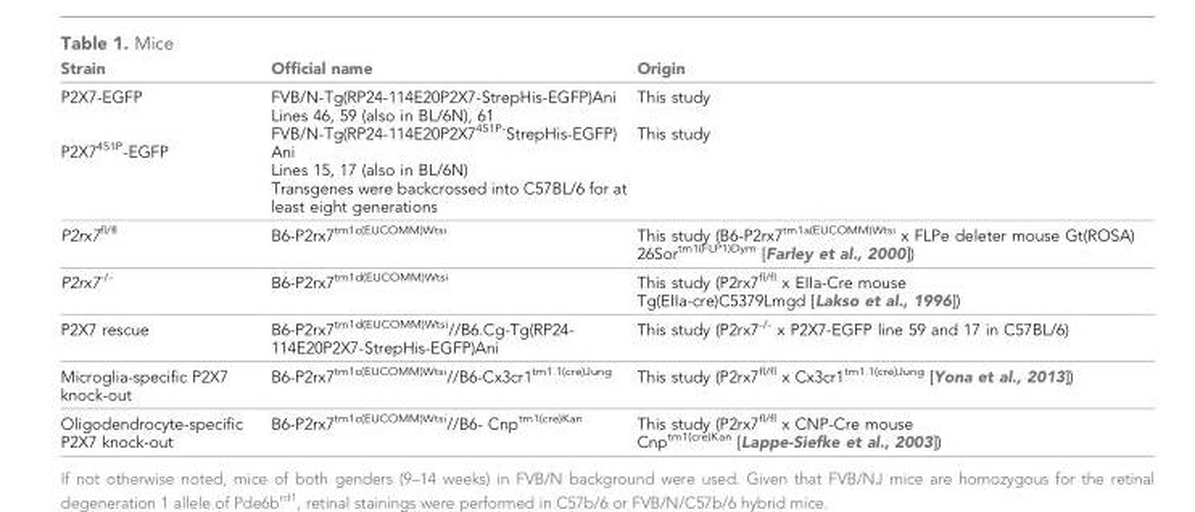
<table><thead><tr><td>Strain</td><td>Official name</td><td>Origin</td></tr></thead><tbody><tr><td>P2X7-EGFP P2X7<sup>451P</sup>-EGFP</td><td>FVB/N-Tg(RP24-114E20P2X7-StrepHis-EGFP)Ani Lines 46, 59 (also in BL/6N), 61 FVB/N-Tg(RP24-114E20P2X7<sup>451P-</sup>StrepHis-EGFP) Ani Lines 15, 17 (also in BL/6N) Transgenes were backcrossed into C57BL/6 for at least eight generations</td><td>This study This study</td></tr><tr><td>P2rx7<sup>fl/fl</sup></td><td>B6-P2rx7<sup>tm1c(EUCOMM)Wtsi</sup></td><td>This study (B6-P2rx7<sup>tm1a(EUCOMM)Wtsi</sup> x FLPe deleter mouse Gt(ROSA) 26Sor<sup>tm1(FLP1)Dym</sup> [Farley et al., 2000])</td></tr><tr><td>P2rx7<sup>-/-</sup></td><td>B6-P2rx7<sup>tm1d(EUCOMM)Wtsi</sup></td><td>This study (P2rx7<sup>fl/fl</sup> x EIIa-Cre mouse Tg(EIIa-cre)C5379Lmgd [Lakso et al., 1996])</td></tr><tr><td>P2X7 rescue</td><td>B6-P2rx7<sup>tm1d(EUCOMM)Wtsi</sup>//B6.Cg-Tg(RP24- 114E20P2X7-StrepHis-EGFP)Ani</td><td>This study (P2rx7<sup>-/-</sup> x P2X7-EGFP line 59 and 17 in C57BL/6)</td></tr><tr><td>Microglia-specific P2X7 knock-out</td><td>B6-P2rx7<sup>tm1c(EUCOMM)Wtsi</sup>//B6-Cx3cr1<sup>tm1.1(cre)Jung</sup></td><td>This study (P2rx7<sup>fl/fl</sup> x Cx3cr1<sup>tm1.1(cre)Jung</sup> [Yona et al., 2013])</td></tr><tr><td>Oligodendrocyte-specific P2X7 knock-out</td><td>B6-P2rx7<sup>tm1c(EUCOMM)Wtsi</sup>//B6- Cnp<sup>tm1(cre)Kan</sup></td><td>This study (P2rx7<sup>fl/fl</sup> x CNP-Cre mouse Cnp<sup>tm1(cre)Kan</sup> [Lappe-Siefke et al., 2003])</td></tr></tbody></table>